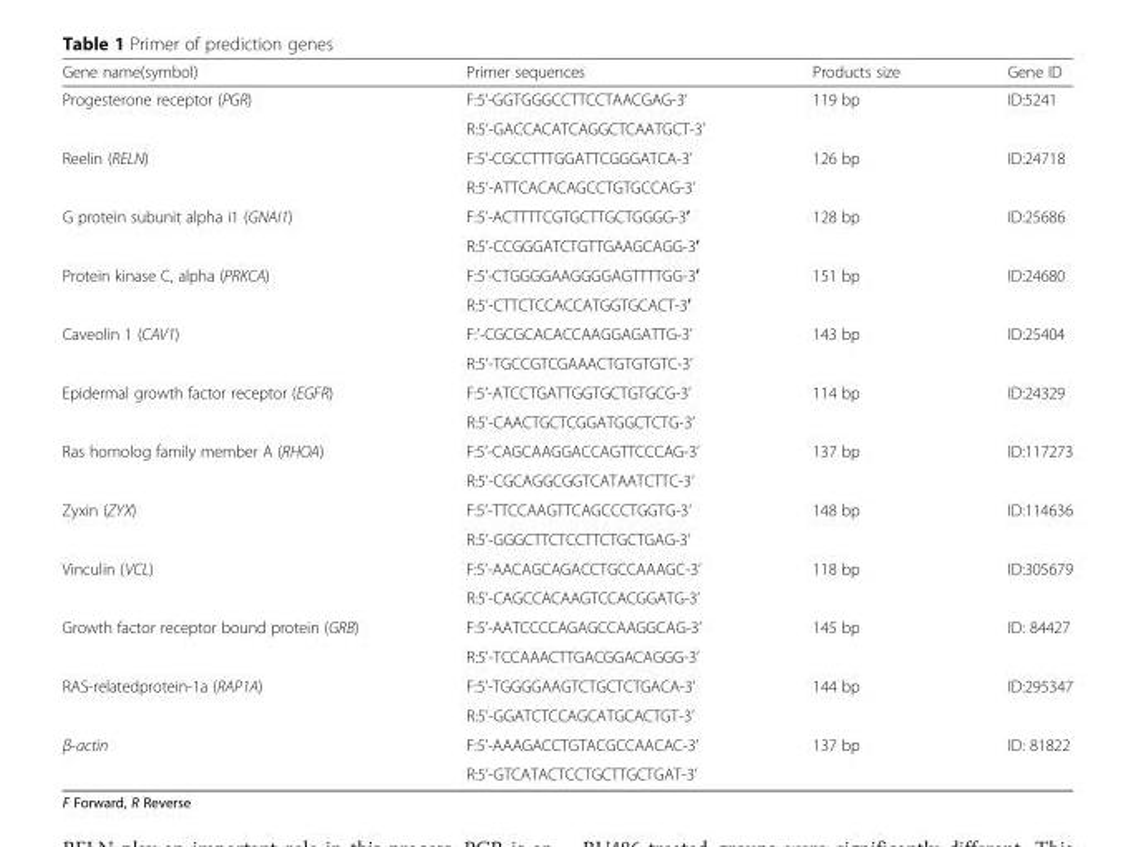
<table><thead><tr><td>Gene name(symbol)</td><td>Primer sequences</td><td>Products size</td><td>Gene ID</td></tr></thead><tbody><tr><td rowspan="2">Progesterone receptor (PGR)</td><td>F:5’-GGTGGGCCTTCCTAACGAG-3’</td><td rowspan="2">119 bp</td><td rowspan="2">ID:5241</td></tr><tr><td>R:5’-GACCACATCAGGCTCAATGCT-3’</td></tr><tr><td rowspan="2">Reelin (RELN)</td><td>F:5’-CGCCTTTGGATTCGGGATCA-3’</td><td rowspan="2">126 bp</td><td rowspan="2">ID:24718</td></tr><tr><td>R:5’-ATTCACACAGCCTGTGCCAG-3’</td></tr><tr><td rowspan="2">G protein subunit alpha i1 (GNAI1)</td><td>F:5’-ACTTTTCGTGCTTGCTGGGG-3′</td><td rowspan="2">128 bp</td><td rowspan="2">ID:25686</td></tr><tr><td>R:5’-CCGGGATCTGTTGAAGCAGG-3′</td></tr><tr><td rowspan="2">Protein kinase C, alpha (PRKCA)</td><td>F:5’-CTGGGGAAGGGGAGTTTTGG-3′</td><td rowspan="2">151 bp</td><td rowspan="2">ID:24680</td></tr><tr><td>R:5’-CTTCTCCACCATGGTGCACT-3′</td></tr><tr><td rowspan="2">Caveolin 1 (CAV1)</td><td>F:’-CGCGCACACCAAGGAGATTG-3’</td><td rowspan="2">143 bp</td><td rowspan="2">ID:25404</td></tr><tr><td>R:5’-TGCCGTCGAAACTGTGTGTC-3’</td></tr><tr><td rowspan="2">Epidermal growth factor receptor (EGFR)</td><td>F:5’-ATCCTGATTGGTGCTGTGCG-3’</td><td rowspan="2">114 bp</td><td rowspan="2">ID:24329</td></tr><tr><td>R:5’-CAACTGCTCGGATGGCTCTG-3’</td></tr><tr><td rowspan="2">Ras homolog family member A (RHOA)</td><td>F:5’-CAGCAAGGACCAGTTCCCAG-3’</td><td rowspan="2">137 bp</td><td rowspan="2">ID:117273</td></tr><tr><td>R:5’-CGCAGGCGGTCATAATCTTC-3’</td></tr><tr><td rowspan="2">Zyxin (ZYX)</td><td>F:5’-TTCCAAGTTCAGCCCTGGTG-3’</td><td rowspan="2">148 bp</td><td rowspan="2">ID:114636</td></tr><tr><td>R:5’-GGGCTTCTCCTTCTGCTGAG-3’</td></tr><tr><td rowspan="2">Vinculin (VCL)</td><td>F:5’-AACAGCAGACCTGCCAAAGC-3’</td><td rowspan="2">118 bp</td><td rowspan="2">ID:305679</td></tr><tr><td>R:5’-CAGCCACAAGTCCACGGATG-3’</td></tr><tr><td rowspan="2">Growth factor receptor bound protein (GRB)</td><td>F:5’-AATCCCCAGAGCCAAGGCAG-3’</td><td rowspan="2">145 bp</td><td rowspan="2">ID: 84427</td></tr><tr><td>R:5’-TCCAAACTTGACGGACAGGG-3’</td></tr><tr><td rowspan="2">RAS-relatedprotein-1a (RAP1A)</td><td>F:5’-TGGGGAAGTCTGCTCTGACA-3’</td><td rowspan="2">144 bp</td><td rowspan="2">ID:295347</td></tr><tr><td>R:5’-GGATCTCCAGCATGCACTGT-3’</td></tr><tr><td rowspan="2">β-actin</td><td>F:5’-AAAGACCTGTACGCCAACAC-3’</td><td rowspan="2">137 bp</td><td rowspan="2">ID: 81822</td></tr><tr><td>R:5’-GTCATACTCCTGCTTGCTGAT-3’</td></tr></tbody></table>